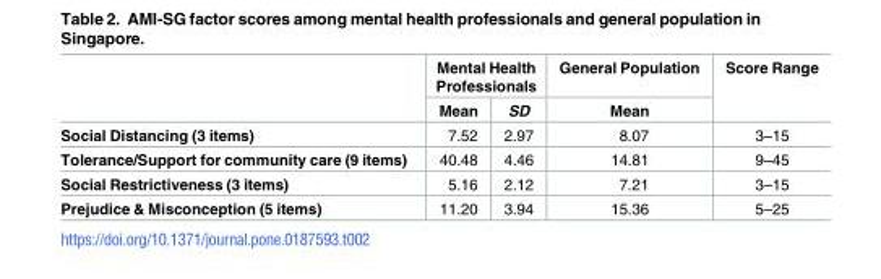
<table><thead><tr><td rowspan="2"></td><td colspan="2">Mental Health Professionals</td><td rowspan="2">General Population Mean</td><td rowspan="2">Score Range</td></tr><tr><td>Mean</td><td>SD</td></tr></thead><tbody><tr><td>Social Distancing (3 items)</td><td>7.52</td><td>2.97</td><td>8.07</td><td>3–15</td></tr><tr><td>Tolerance/Support for community care (9 items)</td><td>40.48</td><td>4.46</td><td>14.81</td><td>9–45</td></tr><tr><td>Social Restrictiveness (3 items)</td><td>5.16</td><td>2.12</td><td>7.21</td><td>3–15</td></tr><tr><td>Prejudice &amp; Misconception (5 items)</td><td>11.20</td><td>3.94</td><td>15.36</td><td>5–25</td></tr></tbody></table>